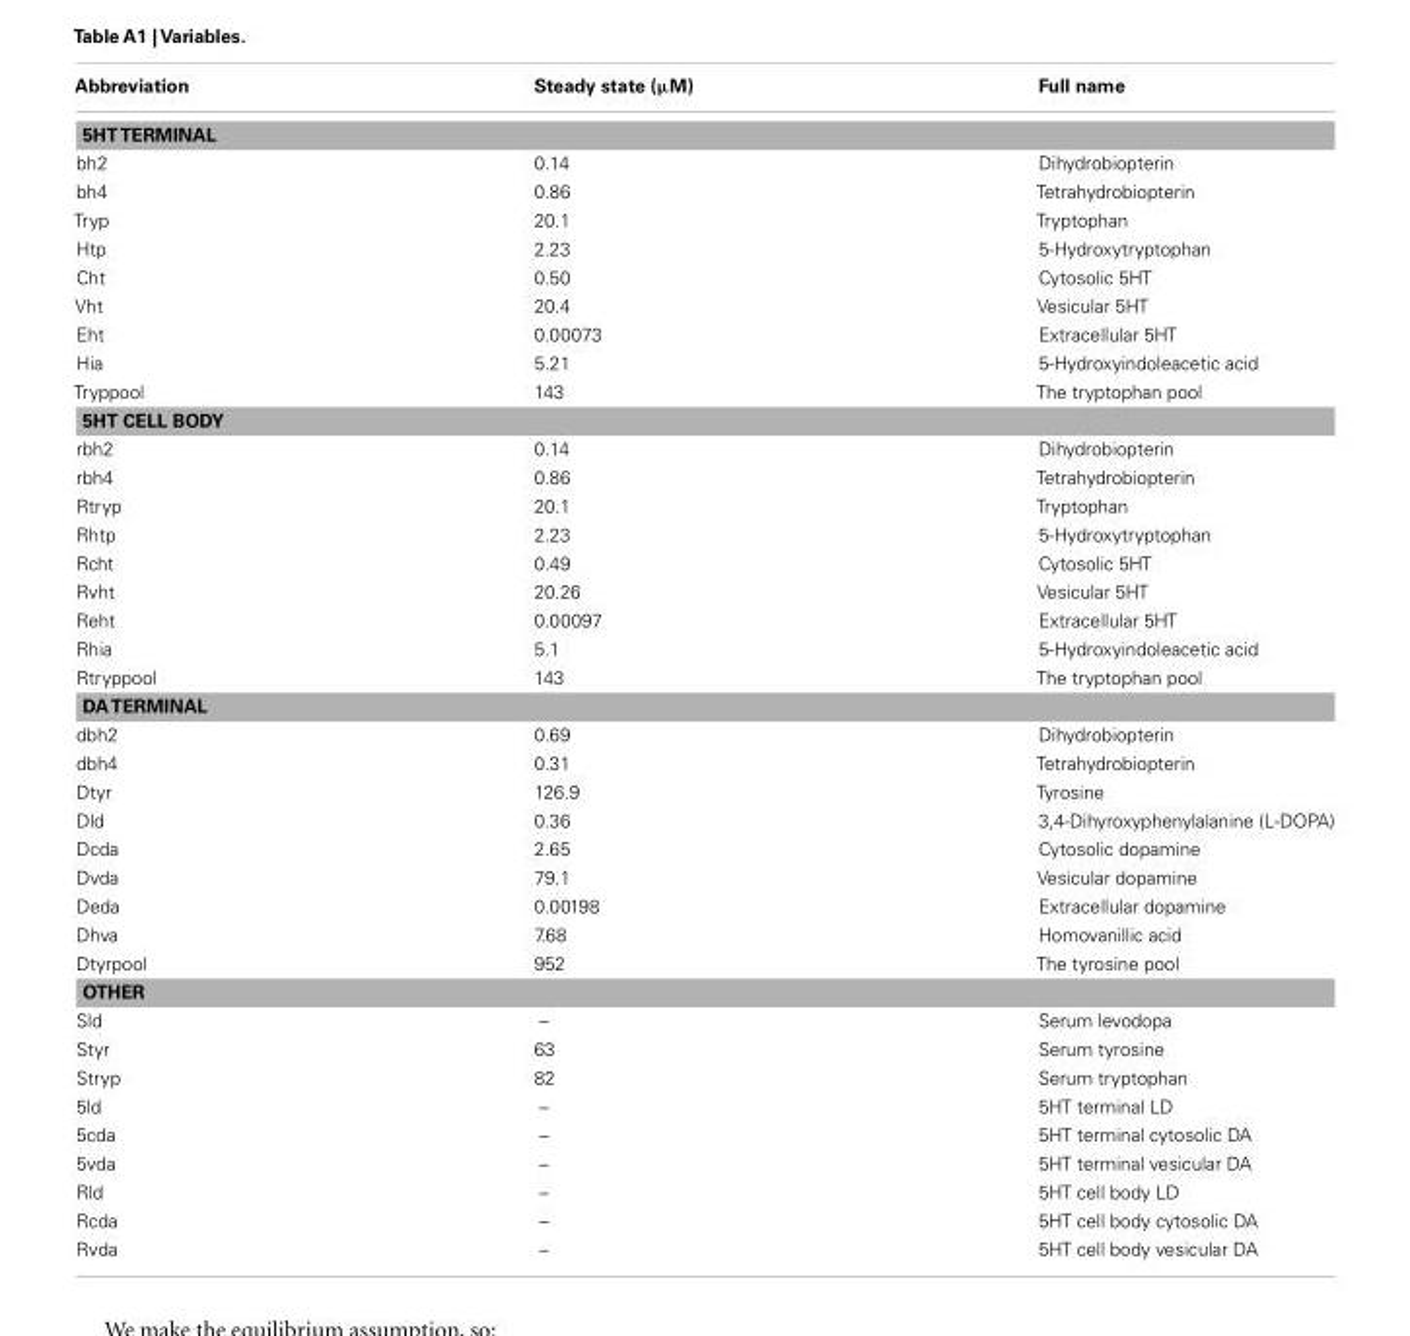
<table><thead><tr><td>Abbreviation</td><td>Steady state (µM)</td><td>Full name</td></tr></thead><tbody><tr><td colspan="3">5HTTERMINAL</td></tr><tr><td>bh2</td><td>0.14</td><td>Dihydrobiopterin</td></tr><tr><td>bh4</td><td>0.86</td><td>Tetrahydrobiopterin</td></tr><tr><td>Tryp</td><td>20.1</td><td>Tryptophan</td></tr><tr><td>Htp</td><td>2.23</td><td>5-Hydroxytryptophan</td></tr><tr><td>Cht</td><td>0.50</td><td>Cytosolic 5HT</td></tr><tr><td>Vht</td><td>20.4</td><td>Vesicular 5HT</td></tr><tr><td>Eht</td><td>0.00073</td><td>Extracellular 5HT</td></tr><tr><td>Hia</td><td>5.21</td><td>5-Hydroxyindoleacetic acid</td></tr><tr><td>Tryppool</td><td>143</td><td>The tryptophan pool</td></tr><tr><td colspan="3">5HT CELL BODY</td></tr><tr><td>rbh2</td><td>0.14</td><td>Dihydrobiopterin</td></tr><tr><td>rbh4</td><td>0.86</td><td>Tetrahydrobiopterin</td></tr><tr><td>Rtryp</td><td>20.1</td><td>Tryptophan</td></tr><tr><td>Rhtp</td><td>2.23</td><td>5-Hydroxytryptophan</td></tr><tr><td>Rcht</td><td>0.49</td><td>Cytosolic 5HT</td></tr><tr><td>Rvht</td><td>20.26</td><td>Vesicular 5HT</td></tr><tr><td>Reht</td><td>0.00097</td><td>Extracellular 5HT</td></tr><tr><td>Rhia</td><td>5.1</td><td>5-Hydroxyindoleacetic acid</td></tr><tr><td>Rtryppool</td><td>143</td><td>The tryptophan pool</td></tr><tr><td colspan="3">DATERMINAL</td></tr><tr><td>dbh2</td><td>0.69</td><td>Dihydrobiopterin</td></tr><tr><td>dbh4</td><td>0.31</td><td>Tetrahydrobiopterin</td></tr><tr><td>Dtyr</td><td>126.9</td><td>Tyrosine</td></tr><tr><td>Dld</td><td>0.36</td><td>3,4-Dihyroxyphenylalanine (L-DOPA)</td></tr><tr><td>Dcda</td><td>2.65</td><td>Cytosolic dopamine</td></tr><tr><td>Dvda</td><td>79.1</td><td>Vesicular dopamine</td></tr><tr><td>Deda</td><td>0.00198</td><td>Extracellular dopamine</td></tr><tr><td>Dhva</td><td>7.68</td><td>Homovanillic acid</td></tr><tr><td>Dtyrpool</td><td>952</td><td>The tyrosine pool</td></tr><tr><td colspan="3">OTHER</td></tr><tr><td>Sld</td><td>–</td><td>Serum levodopa</td></tr><tr><td>Styr</td><td>63</td><td>Serum tyrosine</td></tr><tr><td>Stryp</td><td>82</td><td>Serum tryptophan</td></tr><tr><td>5ld</td><td>–</td><td>5HT terminal LD</td></tr><tr><td>5cda</td><td>–</td><td>5HT terminal cytosolic DA</td></tr><tr><td>5vda</td><td>–</td><td>5HT terminal vesicular DA</td></tr><tr><td>Rld</td><td>–</td><td>5HT cell body LD</td></tr><tr><td>Rcda</td><td>–</td><td>5HT cell body cytosolic DA</td></tr><tr><td>Rvda</td><td>–</td><td>5HT cell body vesicular DA</td></tr></tbody></table>